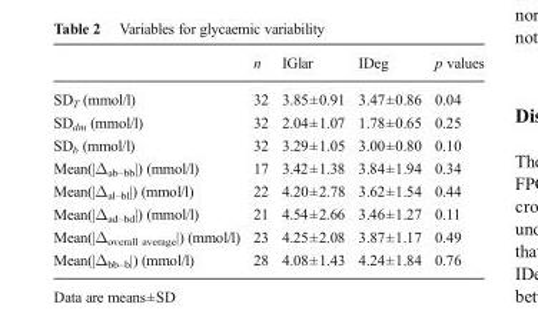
<table><thead><tr><td></td><td>n</td><td>IGlar</td><td>IDeg</td><td>p values</td></tr></thead><tbody><tr><td>SD<sub>T</sub> (mmol/l)</td><td>32</td><td>3.85±0.91</td><td>3.47±0.86</td><td>0.04</td></tr><tr><td>SD<sub>dm</sub> (mmol/l)</td><td>32</td><td>2.04±1.07</td><td>1.78±0.65</td><td>0.25</td></tr><tr><td>SD<sub>b</sub> (mmol/l)</td><td>32</td><td>3.29±1.05</td><td>3.00±0.80</td><td>0.10</td></tr><tr><td>Mean(|Δ<sub>ab–bb</sub>|) (mmol/l)</td><td>17</td><td>3.42±1.38</td><td>3.84±1.94</td><td>0.34</td></tr><tr><td>Mean(|Δ<sub>al–bl</sub>|) (mmol/l)</td><td>22</td><td>4.20±2.78</td><td>3.62±1.54</td><td>0.44</td></tr><tr><td>Mean(|Δ<sub>ad–bd</sub>|) (mmol/l)</td><td>21</td><td>4.54±2.66</td><td>3.46±1.27</td><td>0.11</td></tr><tr><td>Mean(|Δ<sub>overall average</sub>|) (mmol/l)</td><td>23</td><td>4.25±2.08</td><td>3.87±1.17</td><td>0.49</td></tr><tr><td>Mean(|Δ<sub>bb–b</sub>|) (mmol/l)</td><td>28</td><td>4.08±1.43</td><td>4.24±1.84</td><td>0.76</td></tr></tbody></table>